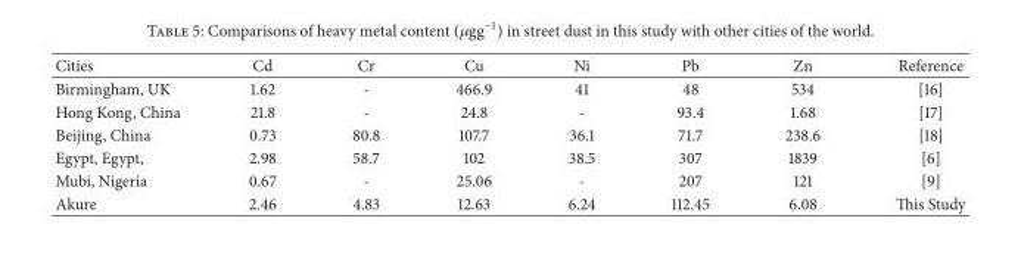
<table><thead><tr><td>Cities</td><td>Cd</td><td>Cr</td><td>Cu</td><td>Ni</td><td>Pb</td><td>Zn</td><td>Reference</td></tr></thead><tbody><tr><td>Birmingham, UK</td><td>1.62</td><td>-</td><td>466.9</td><td>41</td><td>48</td><td>534</td><td>[16]</td></tr><tr><td>Hong Kong, China</td><td>21.8</td><td>-</td><td>24.8</td><td>-</td><td>93.4</td><td>1.68</td><td>[17]</td></tr><tr><td>Beijing, China</td><td>0.73</td><td>80.8</td><td>107.7</td><td>36.1</td><td>71.7</td><td>238.6</td><td>[18]</td></tr><tr><td>Egypt, Egypt,</td><td>2.98</td><td>58.7</td><td>102</td><td>38.5</td><td>307</td><td>1839</td><td>[6]</td></tr><tr><td>Mubi, Nigeria</td><td>0.67</td><td>-</td><td>25.06</td><td>-</td><td>207</td><td>121</td><td>[9]</td></tr><tr><td>Akure</td><td>2.46</td><td>4.83</td><td>12.63</td><td>6.24</td><td>112.45</td><td>6.08</td><td>This Study</td></tr></tbody></table>